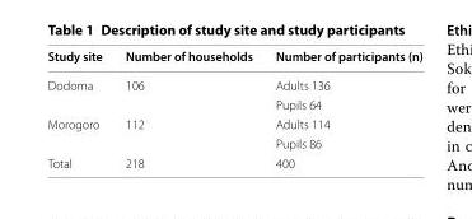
<table><thead><tr><td>Study site</td><td>Number of households</td><td>Number of participants (n)</td></tr></thead><tbody><tr><td rowspan="2">Dodoma</td><td rowspan="2">106</td><td>Adults 136</td></tr><tr><td>Pupils 64</td></tr><tr><td rowspan="2">Morogoro</td><td rowspan="2">112</td><td>Adults 114</td></tr><tr><td>Pupils 86</td></tr><tr><td>Total</td><td>218</td><td>400</td></tr></tbody></table>